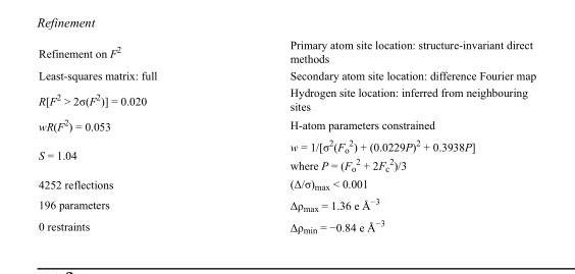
<table><tbody><tr><td>Refinement on F<sup>2</sup></td><td>Primary atom site location: structure-invariant direct methods</td></tr><tr><td>Least-squares matrix: full</td><td>Secondary atom site location: difference Fourier map</td></tr><tr><td>R[F<sup>2</sup> &gt; 2σ(F<sup>2</sup>)] = 0.020</td><td>Hydrogen site location: inferred from neighbouring sites</td></tr><tr><td>wR(F<sup>2</sup>) = 0.053</td><td>H-atom parameters constrained</td></tr><tr><td>S = 1.04</td><td>w = 1/[σ<sup>2</sup>(F<sub>o</sub> <sup>2</sup>) + (0.0229P)<sup>2</sup> + 0.3938P] where P = (F<sub>o</sub> <sup>2</sup> + 2F<sub>c</sub> <sup>2</sup>)/3</td></tr><tr><td>4252 reflections</td><td>(Δ/σ)<sub>max</sub> &lt; 0.001</td></tr><tr><td>196 parameters</td><td>Δρ<sub>max</sub> = 1.36 e Å<sup>−3</sup></td></tr><tr><td>0 restraints</td><td>Δρ<sub>min</sub> = −0.84 e Å<sup>−3</sup></td></tr></tbody></table>